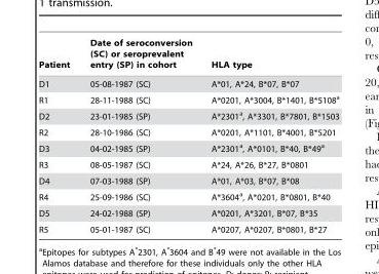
<table><thead><tr><td>Patient</td><td>Date of seroconversion (SC) or seroprevalent entry (SP) in cohort</td><td>HLA type</td></tr></thead><tbody><tr><td>D1</td><td>05-08-1987 (SC)</td><td>A*01, A*24, B*07, B*07</td></tr><tr><td>R1</td><td>28-11-1988 (SC)</td><td>A*0201, A*3004, B*1401, B*5108<sup>a</sup></td></tr><tr><td>D2</td><td>23-01-1985 (SP)</td><td>A*2301<sup>a</sup>, A*3301, B*7801, B*1503</td></tr><tr><td>R2</td><td>28-10-1986 (SC)</td><td>A*0201, A*1101, B*4001, B*5201</td></tr><tr><td>D3</td><td>04-02-1985 (SP)</td><td>A*2301<sup>a</sup>, A*0101, B*40, B*49<sup>a</sup></td></tr><tr><td>R3</td><td>08-05-1987 (SC)</td><td>A*24, A*26, B*27, B*0801</td></tr><tr><td>D4</td><td>07-03-1988 (SP)</td><td>A*01, A*03, B*07, B*08</td></tr><tr><td>R4</td><td>25-09-1986 (SC)</td><td>A*3604<sup>a</sup>, A*0201, B*0801, B*40</td></tr><tr><td>D5</td><td>24-02-1988 (SP)</td><td>A*0201, A*3201, B*07, B*35</td></tr><tr><td>R5</td><td>05-01-1987 (SC)</td><td>A*0207, A*0207, B*0801, B*27</td></tr></tbody></table>